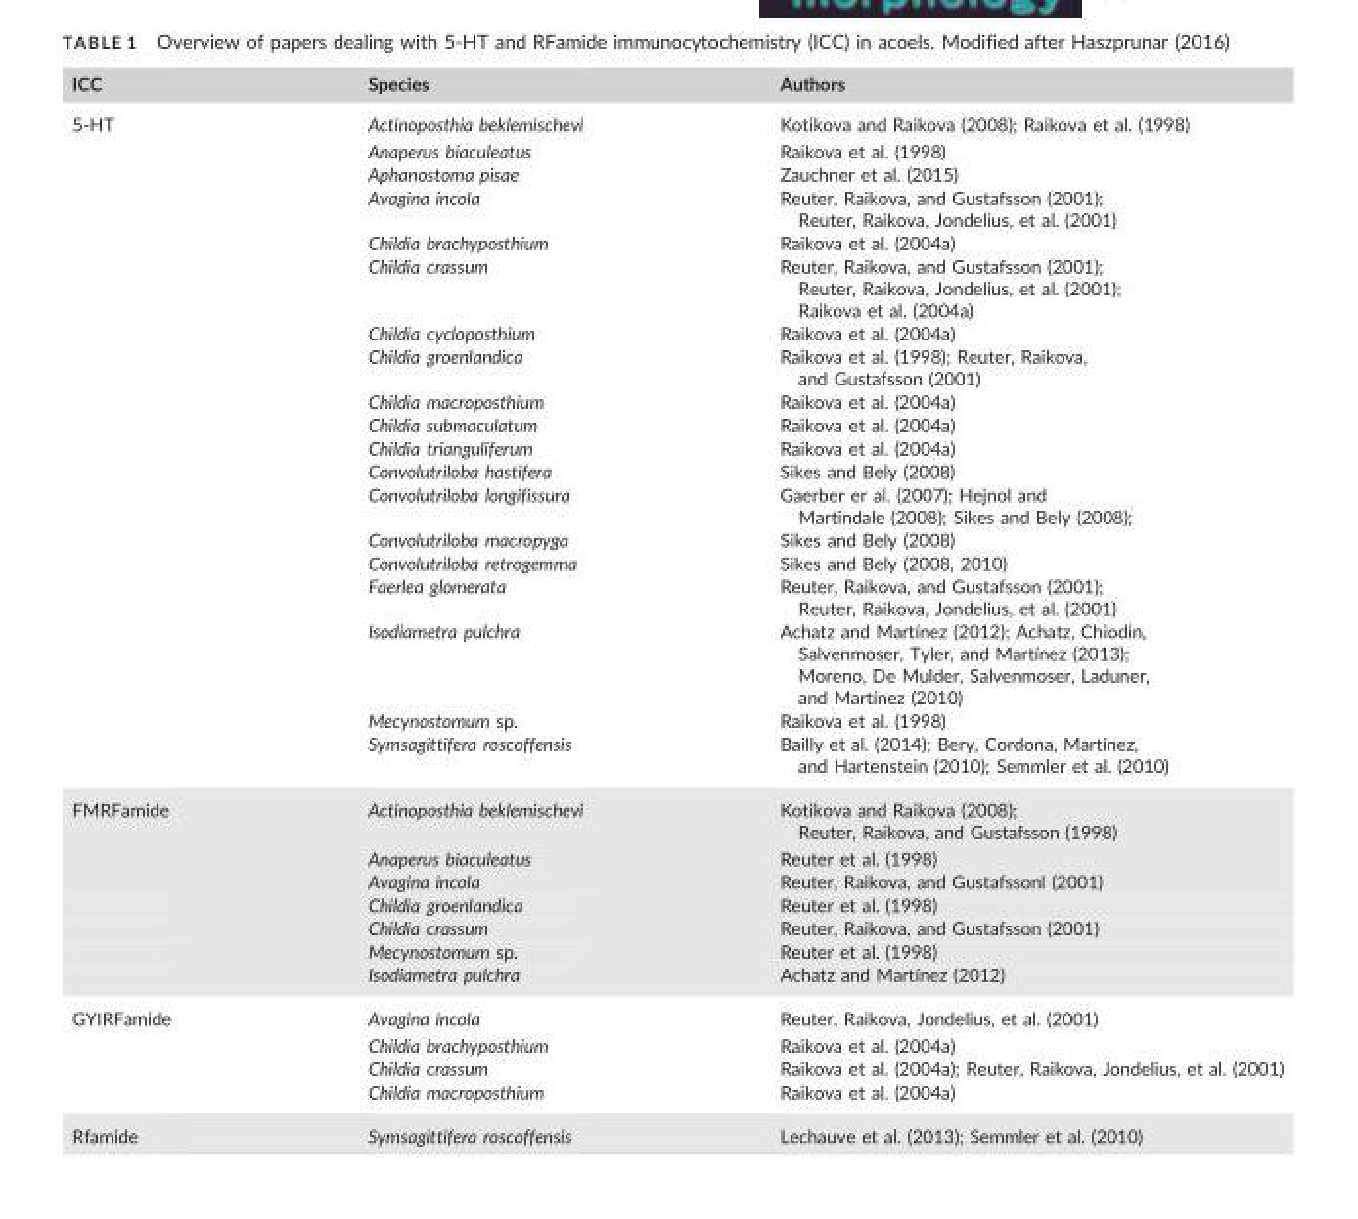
<table><thead><tr><td>ICC</td><td>Species</td><td>Authors</td></tr></thead><tbody><tr><td rowspan="19">5-HT</td><td>Actinoposthia beklemischevi</td><td>Kotikova and Raikova (2008); Raikova et al. (1998)</td></tr><tr><td>Anaperus biaculeatus</td><td>Raikova et al. (1998)</td></tr><tr><td>Aphanostoma pisae</td><td>Zauchner et al. (2015)</td></tr><tr><td>Avagina incola</td><td>Reuter, Raikova, and Gustafsson (2001); Reuter, Raikova, Jondelius, et al. (2001)</td></tr><tr><td>Childia brachyposthium</td><td>Raikova et al. (2004a)</td></tr><tr><td>Childia crassum</td><td>Reuter, Raikova, and Gustafsson (2001); Reuter, Raikova, Jondelius, et al. (2001); Raikova et al. (2004a)</td></tr><tr><td>Childia cycloposthium</td><td>Raikova et al. (2004a)</td></tr><tr><td>Childia groenlandica</td><td>Raikova et al. (1998); Reuter, Raikova, and Gustafsson (2001)</td></tr><tr><td>Childia macroposthium</td><td>Raikova et al. (2004a)</td></tr><tr><td>Childia submaculatum</td><td>Raikova et al. (2004a)</td></tr><tr><td>Childia trianguliferum</td><td>Raikova et al. (2004a)</td></tr><tr><td>Convolutriloba hastifera</td><td>Sikes and Bely (2008)</td></tr><tr><td>Convolutriloba longifissura</td><td>Gaerber er al. (2007); Hejnol and Martindale (2008); Sikes and Bely (2008);</td></tr><tr><td>Convolutriloba macropyga</td><td>Sikes and Bely (2008)</td></tr><tr><td>Convolutriloba retrogemma</td><td>Sikes and Bely (2008, 2010)</td></tr><tr><td>Faerlea glomerata</td><td>Reuter, Raikova, and Gustafsson (2001); Reuter, Raikova, Jondelius, et al. (2001)</td></tr><tr><td>Isodiametra pulchra</td><td>Achatz and Martínez (2012); Achatz, Chiodin, Salvenmoser, Tyler, and Martínez (2013); Moreno, De Mulder, Salvenmoser, Laduner, and Martínez (2010)</td></tr><tr><td>Mecynostomum sp.</td><td>Raikova et al. (1998)</td></tr><tr><td>Symsagittifera roscoffensis</td><td>Bailly et al. (2014); Bery, Cordona, Martínez, and Hartenstein (2010); Semmler et al. (2010)</td></tr><tr><td rowspan="7">FMRFamide</td><td>Actinoposthia beklemischevi</td><td>Kotikova and Raikova (2008); Reuter, Raikova, and Gustafsson (1998)</td></tr><tr><td>Anaperus biaculeatus</td><td>Reuter et al. (1998)</td></tr><tr><td>Avagina incola</td><td>Reuter, Raikova, and Gustafssonl (2001)</td></tr><tr><td>Childia groenlandica</td><td>Reuter et al. (1998)</td></tr><tr><td>Childia crassum</td><td>Reuter, Raikova, and Gustafsson (2001)</td></tr><tr><td>Mecynostomum sp.</td><td>Reuter et al. (1998)</td></tr><tr><td>Isodiametra pulchra</td><td>Achatz and Martínez (2012)</td></tr><tr><td rowspan="4">GYIRFamide</td><td>Avagina incola</td><td>Reuter, Raikova, Jondelius, et al. (2001)</td></tr><tr><td>Childia brachyposthium</td><td>Raikova et al. (2004a)</td></tr><tr><td>Childia crassum</td><td>Raikova et al. (2004a); Reuter, Raikova, Jondelius, et al. (2001)</td></tr><tr><td>Childia macroposthium</td><td>Raikova et al. (2004a)</td></tr><tr><td>Rfamide</td><td>Symsagittifera roscoffensis</td><td>Lechauve et al. (2013); Semmler et al. (2010)</td></tr></tbody></table>